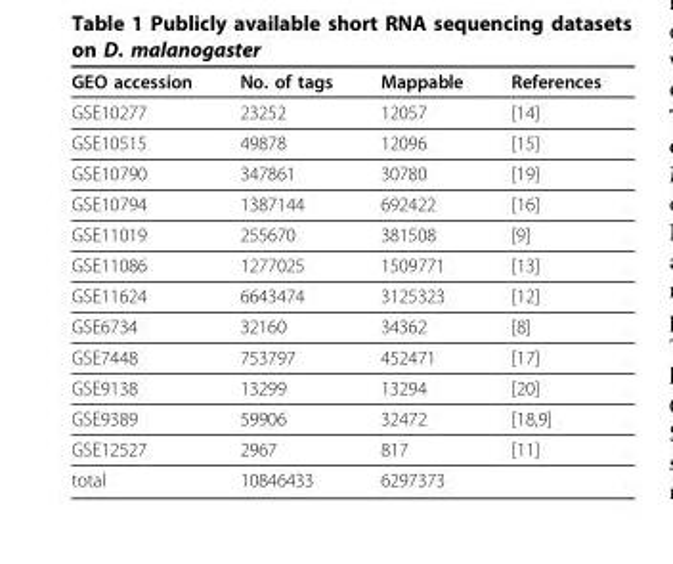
<table><thead><tr><td>GEO accession</td><td>No. of tags</td><td>Mappable</td><td>References</td></tr></thead><tbody><tr><td>GSE10277</td><td>23252</td><td>12057</td><td>[14]</td></tr><tr><td>GSE10515</td><td>49878</td><td>12096</td><td>[15]</td></tr><tr><td>GSE10790</td><td>347861</td><td>30780</td><td>[19]</td></tr><tr><td>GSE10794</td><td>1387144</td><td>692422</td><td>[16]</td></tr><tr><td>GSE11019</td><td>255670</td><td>381508</td><td>[9]</td></tr><tr><td>GSE11086</td><td>1277025</td><td>1509771</td><td>[13]</td></tr><tr><td>GSE11624</td><td>6643474</td><td>3125323</td><td>[12]</td></tr><tr><td>GSE6734</td><td>32160</td><td>34362</td><td>[8]</td></tr><tr><td>GSE7448</td><td>753797</td><td>452471</td><td>[17]</td></tr><tr><td>GSE9138</td><td>13299</td><td>13294</td><td>[20]</td></tr><tr><td>GSE9389</td><td>59906</td><td>32472</td><td>[18,9]</td></tr><tr><td>GSE12527</td><td>2967</td><td>817</td><td>[11]</td></tr><tr><td>total</td><td>10846433</td><td>6297373</td><td></td></tr></tbody></table>